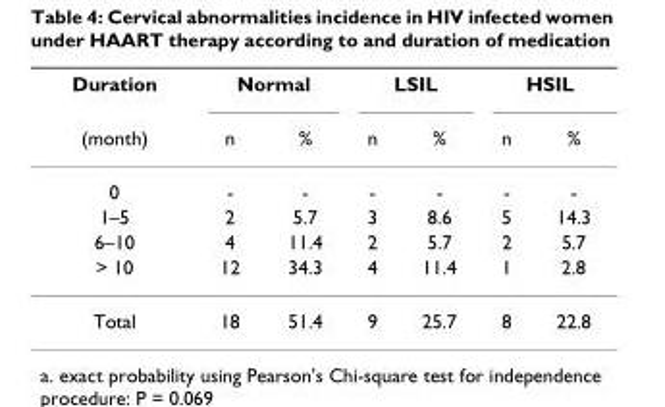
<table><thead><tr><td rowspan="2">Duration (month)</td><td colspan="2">Normal</td><td colspan="2">LSIL</td><td colspan="2">HSIL</td></tr><tr><td>n</td><td>%</td><td>n</td><td>%</td><td>n</td><td>%</td></tr></thead><tbody><tr><td>0</td><td>-</td><td>-</td><td>-</td><td>-</td><td>-</td><td>-</td></tr><tr><td>1–5</td><td>2</td><td>5.7</td><td>3</td><td>8.6</td><td>5</td><td>14.3</td></tr><tr><td>6–10</td><td>4</td><td>11.4</td><td>2</td><td>5.7</td><td>2</td><td>5.7</td></tr><tr><td>&gt; 10</td><td>12</td><td>34.3</td><td>4</td><td>11.4</td><td>1</td><td>2.8</td></tr><tr><td>Total</td><td>18</td><td>51.4</td><td>9</td><td>25.7</td><td>8</td><td>22.8</td></tr></tbody></table>